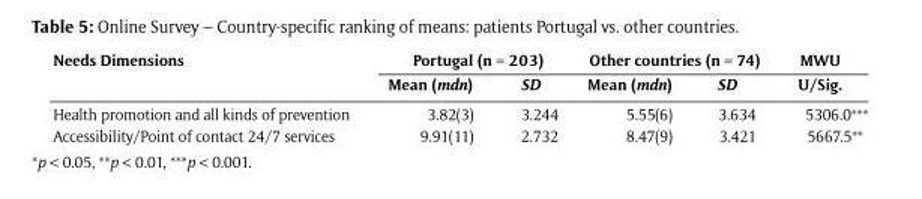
<table><thead><tr><td rowspan="2">Needs Dimensions</td><td colspan="2">Portugal (n = 203)</td><td colspan="2">Other countries (n = 74)</td><td rowspan="2">MWU U/Sig.</td></tr><tr><td>Mean (mdn)</td><td>SD</td><td>Mean (mdn)</td><td>SD</td></tr></thead><tbody><tr><td>Health promotion and all kinds of prevention</td><td>3.82(3)</td><td>3.244</td><td>5.55(6)</td><td>3.634</td><td>5306.0***</td></tr><tr><td>Accessibility/Point of contact 24/7 services</td><td>9.91(11)</td><td>2.732</td><td>8.47(9)</td><td>3.421</td><td>5667.5**</td></tr></tbody></table>